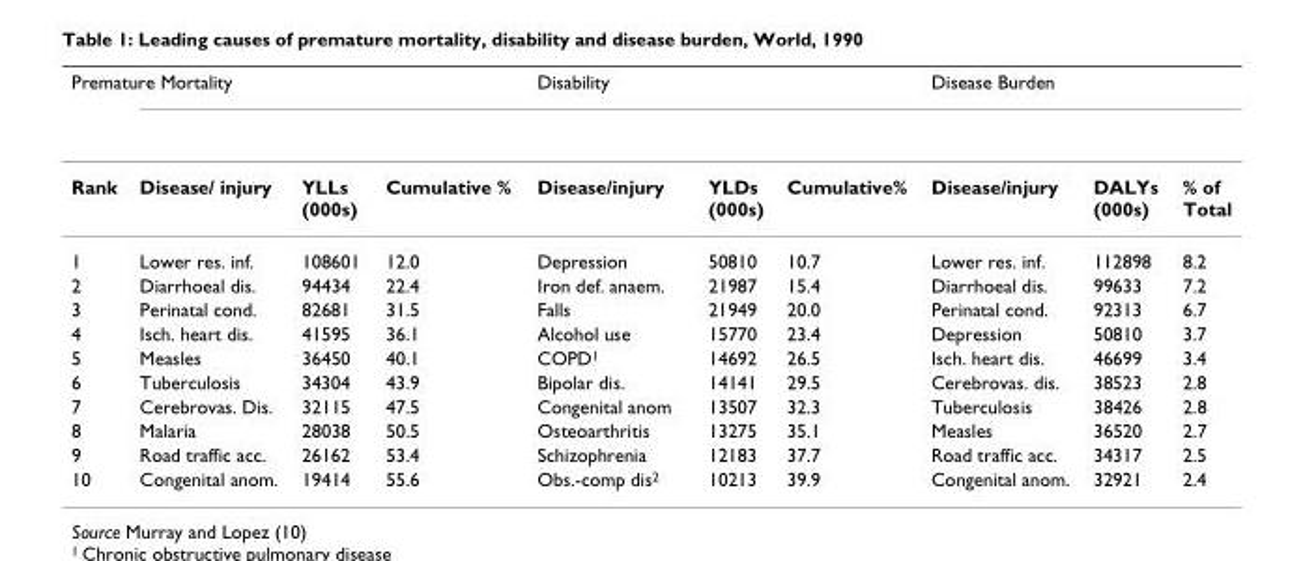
<table><thead><tr><td colspan="4">Premature Mortality</td><td colspan="3">Disability</td><td colspan="3">Disease Burden</td></tr><tr><td>Rank</td><td>Disease/ injury</td><td>YLLs (000s)</td><td>Cumulative %</td><td>Disease/injury</td><td>YLDs (000s)</td><td>Cumulative%</td><td>Disease/injury</td><td>DALYs (000s)</td><td>% of Total</td></tr></thead><tbody><tr><td>1</td><td>Lower res. inf.</td><td>108601</td><td>12.0</td><td>Depression</td><td>50810</td><td>10.7</td><td>Lower res. inf.</td><td>112898</td><td>8.2</td></tr><tr><td>2</td><td>Diarrhoeal dis.</td><td>94434</td><td>22.4</td><td>Iron def. anaem.</td><td>21987</td><td>15.4</td><td>Diarrhoeal dis.</td><td>99633</td><td>7.2</td></tr><tr><td>3</td><td>Perinatal cond.</td><td>82681</td><td>31.5</td><td>Falls</td><td>21949</td><td>20.0</td><td>Perinatal cond.</td><td>92313</td><td>6.7</td></tr><tr><td>4</td><td>Isch. heart dis.</td><td>41595</td><td>36.1</td><td>Alcohol use</td><td>15770</td><td>23.4</td><td>Depression</td><td>50810</td><td>3.7</td></tr><tr><td>5</td><td>Measles</td><td>36450</td><td>40.1</td><td>COPD<sup>1</sup></td><td>14692</td><td>26.5</td><td>Isch. heart dis.</td><td>46699</td><td>3.4</td></tr><tr><td>6</td><td>Tuberculosis</td><td>34304</td><td>43.9</td><td>Bipolar dis.</td><td>14141</td><td>29.5</td><td>Cerebrovas. dis.</td><td>38523</td><td>2.8</td></tr><tr><td>7</td><td>Cerebrovas. Dis.</td><td>32115</td><td>47.5</td><td>Congenital anom</td><td>13507</td><td>32.3</td><td>Tuberculosis</td><td>38426</td><td>2.8</td></tr><tr><td>8</td><td>Malaria</td><td>28038</td><td>50.5</td><td>Osteoarthritis</td><td>13275</td><td>35.1</td><td>Measles</td><td>36520</td><td>2.7</td></tr><tr><td>9</td><td>Road traffic acc.</td><td>26162</td><td>53.4</td><td>Schizophrenia</td><td>12183</td><td>37.7</td><td>Road traffic acc.</td><td>34317</td><td>2.5</td></tr><tr><td>10</td><td>Congenital anom.</td><td>19414</td><td>55.6</td><td>Obs.-comp dis<sup>2</sup></td><td>10213</td><td>39.9</td><td>Congenital anom.</td><td>32921</td><td>2.4</td></tr></tbody></table>